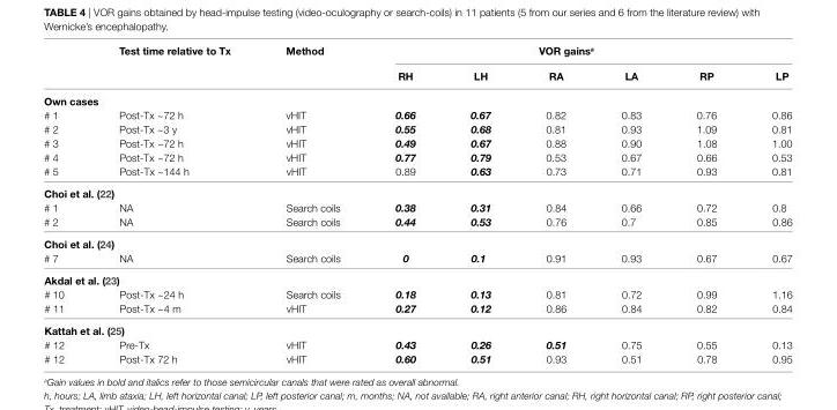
<table><thead><tr><td rowspan="2"></td><td rowspan="2">Test time relative to Tx</td><td rowspan="2">Method</td><td colspan="6">VOr gains<sup>a</sup></td></tr><tr><td>rh</td><td>lh</td><td>ra</td><td>la</td><td>rP</td><td>lP</td></tr></thead><tbody><tr><td colspan="9">Own cases</td></tr><tr><td># 1</td><td>Post-Tx ~72 h</td><td>vHIT</td><td>0.66</td><td>0.67</td><td>0.82</td><td>0.83</td><td>0.76</td><td>0.86</td></tr><tr><td># 2</td><td>Post-Tx ~3 y</td><td>vHIT</td><td>0.55</td><td>0.68</td><td>0.81</td><td>0.93</td><td>1.09</td><td>0.81</td></tr><tr><td># 3</td><td>Post-Tx ~72 h</td><td>vHIT</td><td>0.49</td><td>0.67</td><td>0.88</td><td>0.90</td><td>1.08</td><td>1.00</td></tr><tr><td># 4</td><td>Post-Tx ~72 h</td><td>vHIT</td><td>0.77</td><td>0.79</td><td>0.53</td><td>0.67</td><td>0.66</td><td>0.53</td></tr><tr><td># 5</td><td>Post-Tx ~144 h</td><td>vHIT</td><td>0.89</td><td>0.63</td><td>0.73</td><td>0.71</td><td>0.93</td><td>0.81</td></tr><tr><td colspan="9">choi et al. (22)</td></tr><tr><td># 1</td><td>NA</td><td>Search coils</td><td>0.38</td><td>0.31</td><td>0.84</td><td>0.66</td><td>0.72</td><td>0.8</td></tr><tr><td># 2</td><td>NA</td><td>Search coils</td><td>0.44</td><td>0.53</td><td>0.76</td><td>0.7</td><td>0.85</td><td>0.86</td></tr><tr><td colspan="9">choi et al. (24)</td></tr><tr><td># 7</td><td>NA</td><td>Search coils</td><td>0</td><td>0.1</td><td>0.91</td><td>0.93</td><td>0.67</td><td>0.67</td></tr><tr><td colspan="9">akdal et al. (23)</td></tr><tr><td># 10</td><td>Post-Tx ~24 h</td><td>Search coils</td><td>0.18</td><td>0.13</td><td>0.81</td><td>0.72</td><td>0.99</td><td>1.16</td></tr><tr><td># 11</td><td>Post-Tx ~4 m</td><td>vHIT</td><td>0.27</td><td>0.12</td><td>0.86</td><td>0.84</td><td>0.82</td><td>0.84</td></tr><tr><td colspan="9">Kattah et al. (25)</td></tr><tr><td># 12</td><td>Pre-Tx</td><td>vHIT</td><td>0.43</td><td>0.26</td><td>0.51</td><td>0.75</td><td>0.55</td><td>0.13</td></tr><tr><td># 12</td><td>Post-Tx 72 h</td><td>vHIT</td><td>0.60</td><td>0.51</td><td>0.93</td><td>0.51</td><td>0.78</td><td>0.95</td></tr></tbody></table>